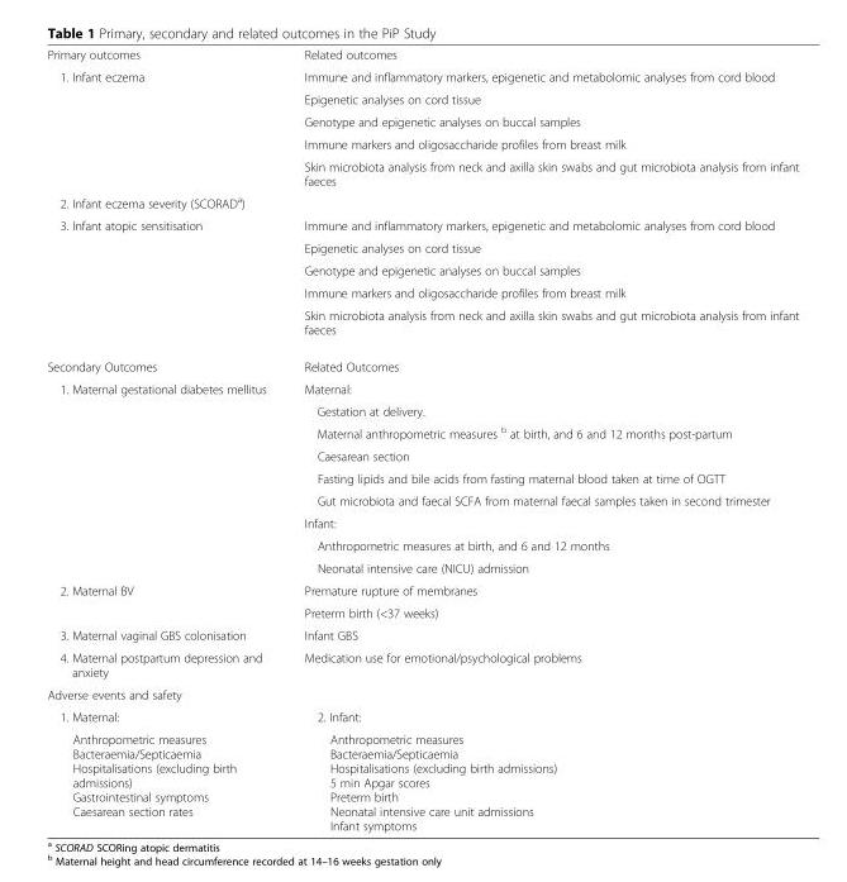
<table><tbody><tr><td>Primary outcomes</td><td>Related outcomes</td></tr><tr><td rowspan="5">1. Infant eczema</td><td>Immune and inflammatory markers, epigenetic and metabolomic analyses from cord blood</td></tr><tr><td>Epigenetic analyses on cord tissue</td></tr><tr><td>Genotype and epigenetic analyses on buccal samples</td></tr><tr><td>Immune markers and oligosaccharide profiles from breast milk</td></tr><tr><td>Skin microbiota analysis from neck and axilla skin swabs and gut microbiota analysis from infant faeces</td></tr><tr><td colspan="2">2. Infant eczema severity (SCORAD<sup>a</sup>)</td></tr><tr><td rowspan="5">3. Infant atopic sensitisation</td><td>Immune and inflammatory markers, epigenetic and metabolomic analyses from cord blood</td></tr><tr><td>Epigenetic analyses on cord tissue</td></tr><tr><td>Genotype and epigenetic analyses on buccal samples</td></tr><tr><td>Immune markers and oligosaccharide profiles from breast milk</td></tr><tr><td>Skin microbiota analysis from neck and axilla skin swabs and gut microbiota analysis from infant faeces</td></tr><tr><td>Secondary Outcomes</td><td>Related Outcomes</td></tr><tr><td rowspan="9">1. Maternal gestational diabetes mellitus</td><td>Maternal:</td></tr><tr><td>Gestation at delivery.</td></tr><tr><td>Maternal anthropometric measures <sup>b</sup> at birth, and 6 and 12 months post-partum</td></tr><tr><td>Caesarean section</td></tr><tr><td>Fasting lipids and bile acids from fasting maternal blood taken at time of OGTT</td></tr><tr><td>Gut microbiota and faecal SCFA from maternal faecal samples taken in second trimester</td></tr><tr><td>Infant:</td></tr><tr><td>Anthropometric measures at birth, and 6 and 12 months</td></tr><tr><td>Neonatal intensive care (NICU) admission</td></tr><tr><td rowspan="2">2. Maternal BV</td><td>Premature rupture of membranes</td></tr><tr><td>Preterm birth (&lt;37 weeks)</td></tr><tr><td>3. Maternal vaginal GBS colonisation</td><td>Infant GBS</td></tr><tr><td>4. Maternal postpartum depression and anxiety</td><td>Medication use for emotional/psychological problems</td></tr><tr><td colspan="2">Adverse events and safety</td></tr><tr><td>1. Maternal:</td><td>2. Infant:</td></tr><tr><td>Anthropometric measures Bacteraemia/Septicaemia Hospitalisations (excluding birth admissions) Gastrointestinal symptoms Caesarean section rates</td><td>Anthropometric measures Bacteraemia/Septicaemia Hospitalisations (excluding birth admissions) 5 min Apgar scores Preterm birth Neonatal intensive care unit admissions Infant symptoms</td></tr></tbody></table>